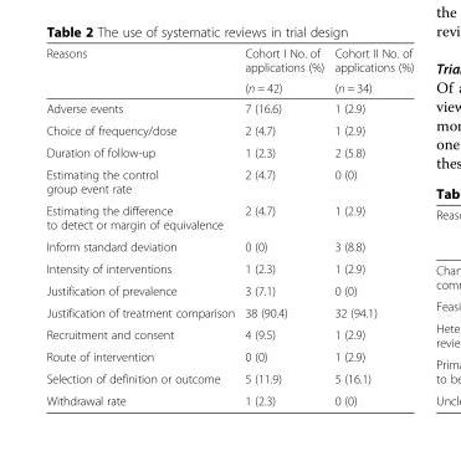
<table><thead><tr><td rowspan="2">Reasons</td><td rowspan="2">Cohort I No. of applications (%) (n = 42)</td><td rowspan="2">Cohort II No. of applications (%) (n = 34)</td></tr><tr></tr></thead><tbody><tr><td>Adverse events</td><td>7 (16.6)</td><td>1 (2.9)</td></tr><tr><td>Choice of frequency/dose</td><td>2 (4.7)</td><td>1 (2.9)</td></tr><tr><td>Duration of follow-up</td><td>1 (2.3)</td><td>2 (5.8)</td></tr><tr><td>Estimating the control group event rate</td><td>2 (4.7)</td><td>0 (0)</td></tr><tr><td>Estimating the difference to detect or margin of equivalence</td><td>2 (4.7)</td><td>1 (2.9)</td></tr><tr><td>Inform standard deviation</td><td>0 (0)</td><td>3 (8.8)</td></tr><tr><td>Intensity of interventions</td><td>1 (2.3)</td><td>1 (2.9)</td></tr><tr><td>Justification of prevalence</td><td>3 (7.1)</td><td>0 (0)</td></tr><tr><td>Justification of treatment comparison</td><td>38 (90.4)</td><td>32 (94.1)</td></tr><tr><td>Recruitment and consent</td><td>4 (9.5)</td><td>1 (2.9)</td></tr><tr><td>Route of intervention</td><td>0 (0)</td><td>1 (2.9)</td></tr><tr><td>Selection of definition or outcome</td><td>5 (11.9)</td><td>5 (16.1)</td></tr><tr><td>Withdrawal rate</td><td>1 (2.3)</td><td>0 (0)</td></tr></tbody></table>